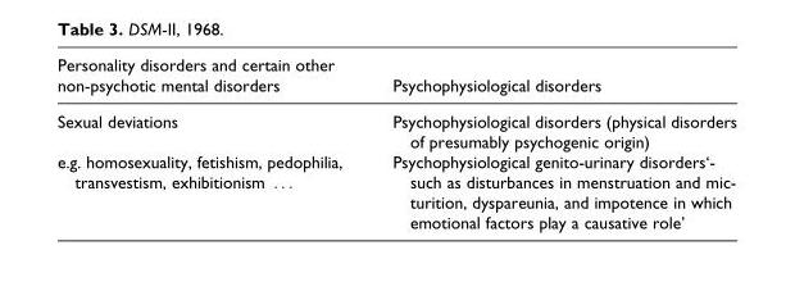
<table><thead><tr><td>Personality disorders and certain other non-psychotic mental disorders</td><td>Psychophysiological disorders</td></tr></thead><tbody><tr><td>Sexual deviations</td><td>Psychophysiological disorders (physical disorders of presumably psychogenic origin)</td></tr><tr><td>e.g. homosexuality, fetishism, pedophilia, transvestism, exhibitionism . . .</td><td>Psychophysiological genito-urinary disorders‘- such as disturbances in menstruation and mic- turition, dyspareunia, and impotence in which emotional factors play a causative role’</td></tr></tbody></table>